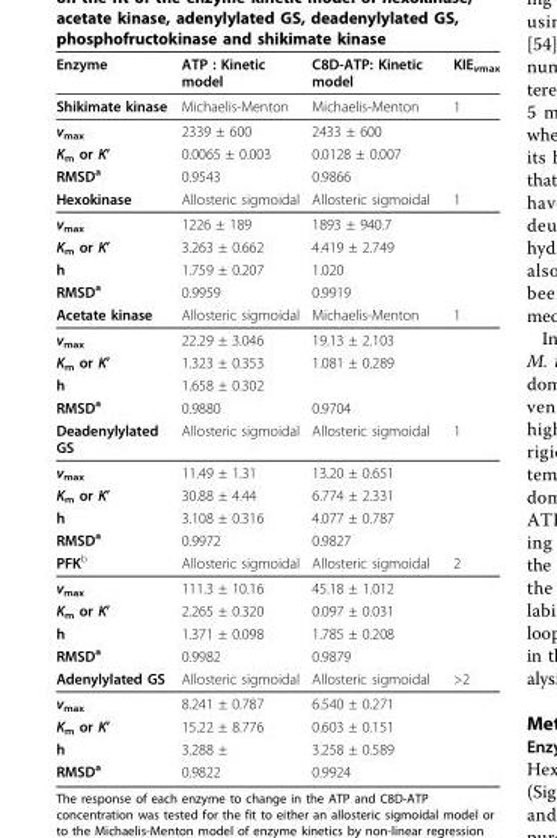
<table><thead><tr><td>Enzyme</td><td>ATP : Kinetic model</td><td>C8D-ATP: Kinetic model</td><td>KIE<sub>vmax</sub></td></tr></thead><tbody><tr><td>Shikimate kinase</td><td>Michaelis-Menton</td><td>Michaelis-Menton</td><td>1</td></tr><tr><td>v<sub>max</sub></td><td>2339 ± 600</td><td>2433 ± 600</td><td></td></tr><tr><td>K<sub>m</sub> or K’</td><td>0.0065 ± 0.003</td><td>0.0128 ± 0.007</td><td></td></tr><tr><td>RMSD<sup>a</sup></td><td>0.9543</td><td>0.9866</td><td></td></tr><tr><td>Hexokinase</td><td>Allosteric sigmoidal</td><td>Allosteric sigmoidal</td><td>1</td></tr><tr><td>v<sub>max</sub></td><td>1226 ± 189</td><td>1893 ± 940.7</td><td></td></tr><tr><td>K<sub>m</sub> or K’</td><td>3.263 ± 0.662</td><td>4.419 ± 2.749</td><td></td></tr><tr><td>h</td><td>1.759 ± 0.207</td><td>1.020</td><td></td></tr><tr><td>RMSD<sup>a</sup></td><td>0.9959</td><td>0.9919</td><td></td></tr><tr><td>Acetate kinase</td><td>Allosteric sigmoidal</td><td>Michaelis-Menton</td><td>1</td></tr><tr><td>v<sub>max</sub></td><td>22.29 ± 3.046</td><td>19.13 ± 2.103</td><td></td></tr><tr><td>K<sub>m</sub> or K’</td><td>1.323 ± 0.353</td><td>1.081 ± 0.289</td><td></td></tr><tr><td>h</td><td>1.658 ± 0.302</td><td></td><td></td></tr><tr><td>RMSD<sup>a</sup></td><td>0.9880</td><td>0.9704</td><td></td></tr><tr><td>Deadenylylated GS</td><td>Allosteric sigmoidal</td><td>Allosteric sigmoidal</td><td>1</td></tr><tr><td>v<sub>max</sub></td><td>11.49 ± 1.31</td><td>13.20 ± 0.651</td><td></td></tr><tr><td>K<sub>m</sub> or K’</td><td>30.88 ± 4.44</td><td>6.774 ± 2.331</td><td></td></tr><tr><td>h</td><td>3.108 ± 0.316</td><td>4.077 ± 0.787</td><td></td></tr><tr><td>RMSD<sup>a</sup></td><td>0.9972</td><td>0.9827</td><td></td></tr><tr><td>PFK<sup>b</sup></td><td>Allosteric sigmoidal</td><td>Allosteric sigmoidal</td><td>2</td></tr><tr><td>v<sub>max</sub></td><td>111.3 ± 10.16</td><td>45.18 ± 1.012</td><td></td></tr><tr><td>K<sub>m</sub> or K’</td><td>2.265 ± 0.320</td><td>0.097 ± 0.031</td><td></td></tr><tr><td>h</td><td>1.371 ± 0.098</td><td>1.785 ± 0.208</td><td></td></tr><tr><td>RMSD<sup>a</sup></td><td>0.9982</td><td>0.9879</td><td></td></tr><tr><td>Adenylylated GS</td><td>Allosteric sigmoidal</td><td>Allosteric sigmoidal</td><td>&gt;2</td></tr><tr><td>v<sub>max</sub></td><td>8.241 ± 0.787</td><td>6.540 ± 0.271</td><td></td></tr><tr><td>K<sub>m</sub> or K’</td><td>15.22 ± 8.776</td><td>0.603 ± 0.151</td><td></td></tr><tr><td>h</td><td>3.288 ±</td><td>3.258 ± 0.589</td><td></td></tr><tr><td>RMSD<sup>a</sup></td><td>0.9822</td><td>0.9924</td><td></td></tr></tbody></table>